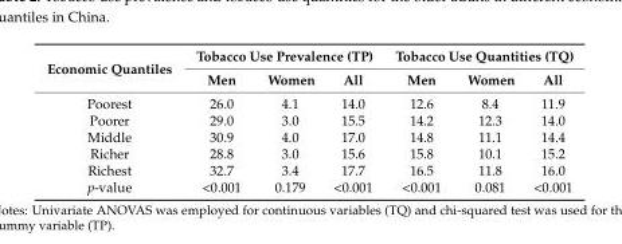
<table><thead><tr><td rowspan="2">Economic Quantiles</td><td colspan="3">Tobacco Use Prevalence (TP)</td><td colspan="3">Tobacco Use Quantities (TQ)</td></tr><tr><td>Men</td><td>Women</td><td>All</td><td>Men</td><td>Women</td><td>All</td></tr></thead><tbody><tr><td>Poorest</td><td>26.0</td><td>4.1</td><td>14.0</td><td>12.6</td><td>8.4</td><td>11.9</td></tr><tr><td>Poorer</td><td>29.0</td><td>3.0</td><td>15.5</td><td>14.2</td><td>12.3</td><td>14.0</td></tr><tr><td>Middle</td><td>30.9</td><td>4.0</td><td>17.0</td><td>14.8</td><td>11.1</td><td>14.4</td></tr><tr><td>Richer</td><td>28.8</td><td>3.0</td><td>15.6</td><td>15.8</td><td>10.1</td><td>15.2</td></tr><tr><td>Richest</td><td>32.7</td><td>3.4</td><td>17.7</td><td>16.5</td><td>11.8</td><td>16.0</td></tr><tr><td>p-value</td><td>&lt;0.001</td><td>0.179</td><td>&lt;0.001</td><td>&lt;0.001</td><td>0.081</td><td>&lt;0.001</td></tr></tbody></table>